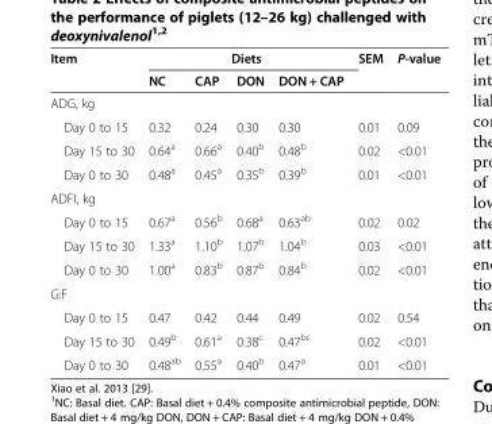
<table><thead><tr><td rowspan="2">Item</td><td colspan="4">Diets</td><td rowspan="2">SEM</td><td rowspan="2">P-value</td></tr><tr><td>NC</td><td>CAP</td><td>DON</td><td>DON + CAP</td></tr></thead><tbody><tr><td colspan="7">ADG, kg</td></tr><tr><td>Day 0 to 15</td><td>0.32</td><td>0.24</td><td>0.30</td><td>0.30</td><td>0.01</td><td>0.09</td></tr><tr><td>Day 15 to 30</td><td>0.64<sup>a</sup></td><td>0.66<sup>a</sup></td><td>0.40<sup>b</sup></td><td>0.48<sup>b</sup></td><td>0.02</td><td>&lt;0.01</td></tr><tr><td>Day 0 to 30</td><td>0.48<sup>a</sup></td><td>0.45<sup>a</sup></td><td>0.35<sup>b</sup></td><td>0.39<sup>b</sup></td><td>0.01</td><td>&lt;0.01</td></tr><tr><td colspan="7">ADFI, kg</td></tr><tr><td>Day 0 to 15</td><td>0.67<sup>a</sup></td><td>0.56<sup>b</sup></td><td>0.68<sup>a</sup></td><td>0.63<sup>ab</sup></td><td>0.02</td><td>0.02</td></tr><tr><td>Day 15 to 30</td><td>1.33<sup>a</sup></td><td>1.10<sup>b</sup></td><td>1.07<sup>b</sup></td><td>1.04<sup>b</sup></td><td>0.03</td><td>&lt;0.01</td></tr><tr><td>Day 0 to 30</td><td>1.00<sup>a</sup></td><td>0.83<sup>b</sup></td><td>0.87<sup>b</sup></td><td>0.84<sup>b</sup></td><td>0.02</td><td>&lt;0.01</td></tr><tr><td colspan="7">G:F</td></tr><tr><td>Day 0 to 15</td><td>0.47</td><td>0.42</td><td>0.44</td><td>0.49</td><td>0.02</td><td>0.54</td></tr><tr><td>Day 15 to 30</td><td>0.49<sup>b</sup></td><td>0.61<sup>a</sup></td><td>0.38<sup>c</sup></td><td>0.47<sup>bc</sup></td><td>0.02</td><td>&lt;0.01</td></tr><tr><td>Day 0 to 30</td><td>0.48<sup>ab</sup></td><td>0.55<sup>a</sup></td><td>0.40<sup>b</sup></td><td>0.47<sup>a</sup></td><td>0.01</td><td>&lt;0.01</td></tr></tbody></table>